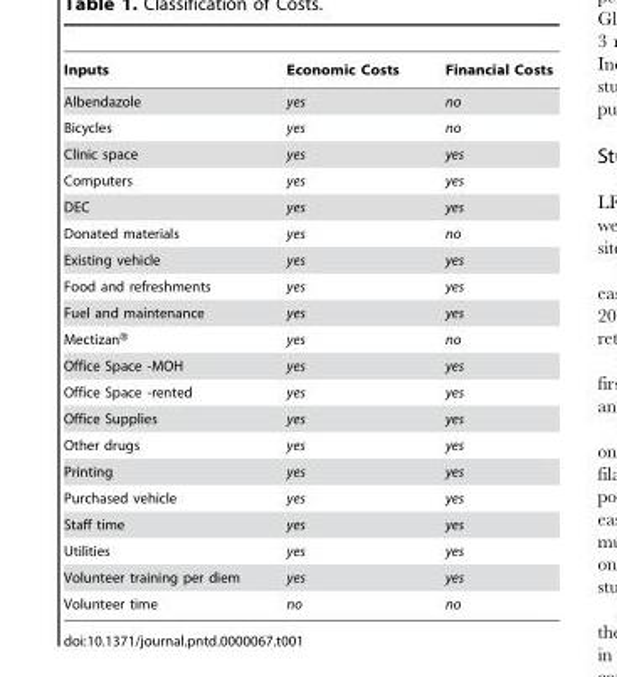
<table><thead><tr><td>Inputs</td><td>Economic Costs</td><td>Financial Costs</td></tr></thead><tbody><tr><td>Albendazole</td><td>yes</td><td>no</td></tr><tr><td>Bicycles</td><td>yes</td><td>no</td></tr><tr><td>Clinic space</td><td>yes</td><td>yes</td></tr><tr><td>Computers</td><td>yes</td><td>yes</td></tr><tr><td>DEC</td><td>yes</td><td>yes</td></tr><tr><td>Donated materials</td><td>yes</td><td>no</td></tr><tr><td>Existing vehicle</td><td>yes</td><td>yes</td></tr><tr><td>Food and refreshments</td><td>yes</td><td>yes</td></tr><tr><td>Fuel and maintenance</td><td>yes</td><td>yes</td></tr><tr><td>Mectizan®</td><td>yes</td><td>no</td></tr><tr><td>Office Space -MOH</td><td>yes</td><td>yes</td></tr><tr><td>Office Space -rented</td><td>yes</td><td>yes</td></tr><tr><td>Office Supplies</td><td>yes</td><td>yes</td></tr><tr><td>Other drugs</td><td>yes</td><td>yes</td></tr><tr><td>Printing</td><td>yes</td><td>yes</td></tr><tr><td>Purchased vehicle</td><td>yes</td><td>yes</td></tr><tr><td>Staff time</td><td>yes</td><td>yes</td></tr><tr><td>Utilities</td><td>yes</td><td>yes</td></tr><tr><td>Volunteer training per diem</td><td>yes</td><td>yes</td></tr><tr><td>Volunteer time</td><td>no</td><td>no</td></tr></tbody></table>